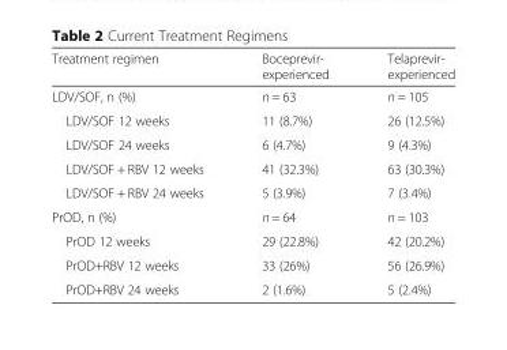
<table><thead><tr><td>Treatment regimen</td><td>Boceprevir- experienced</td><td>Telaprevir- experienced</td></tr></thead><tbody><tr><td>LDV/SOF, n (%)</td><td>n = 63</td><td>n = 105</td></tr><tr><td>LDV/SOF 12 weeks</td><td>11 (8.7%)</td><td>26 (12.5%)</td></tr><tr><td>LDV/SOF 24 weeks</td><td>6 (4.7%)</td><td>9 (4.3%)</td></tr><tr><td>LDV/SOF + RBV 12 weeks</td><td>41 (32.3%)</td><td>63 (30.3%)</td></tr><tr><td>LDV/SOF + RBV 24 weeks</td><td>5 (3.9%)</td><td>7 (3.4%)</td></tr><tr><td>PrOD, n (%)</td><td>n = 64</td><td>n = 103</td></tr><tr><td>PrOD 12 weeks</td><td>29 (22.8%)</td><td>42 (20.2%)</td></tr><tr><td>PrOD+RBV 12 weeks</td><td>33 (26%)</td><td>56 (26.9%)</td></tr><tr><td>PrOD+RBV 24 weeks</td><td>2 (1.6%)</td><td>5 (2.4%)</td></tr></tbody></table>